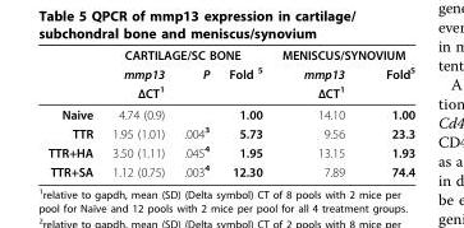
<table><thead><tr><td rowspan="3"></td><td colspan="3">CARTILAGE/SC BONE</td><td colspan="2">MENISCUS/SYNOVIUM</td></tr><tr><td rowspan="2">mmp13 ΔCT<sup>1</sup></td><td rowspan="2">P</td><td rowspan="2">Fold <sup>5</sup></td><td rowspan="2">mmp13 ΔCT<sup>1</sup></td><td rowspan="2">Fold<sup>5</sup></td></tr><tr></tr></thead><tbody><tr><td>Naive</td><td>4.74 (0.9)</td><td></td><td>1.00</td><td>14.10</td><td>1.00</td></tr><tr><td>TTR</td><td>1.95 (1.01)</td><td>.004<sup>3</sup></td><td>5.73</td><td>9.56</td><td>23.3</td></tr><tr><td>TTR+HA</td><td>3.50 (1.11)</td><td>.045<sup>4</sup></td><td>1.95</td><td>13.15</td><td>1.93</td></tr><tr><td>TTR+SA</td><td>1.12 (0.75)</td><td>.003<sup>4</sup></td><td>12.30</td><td>7.89</td><td>74.4</td></tr></tbody></table>